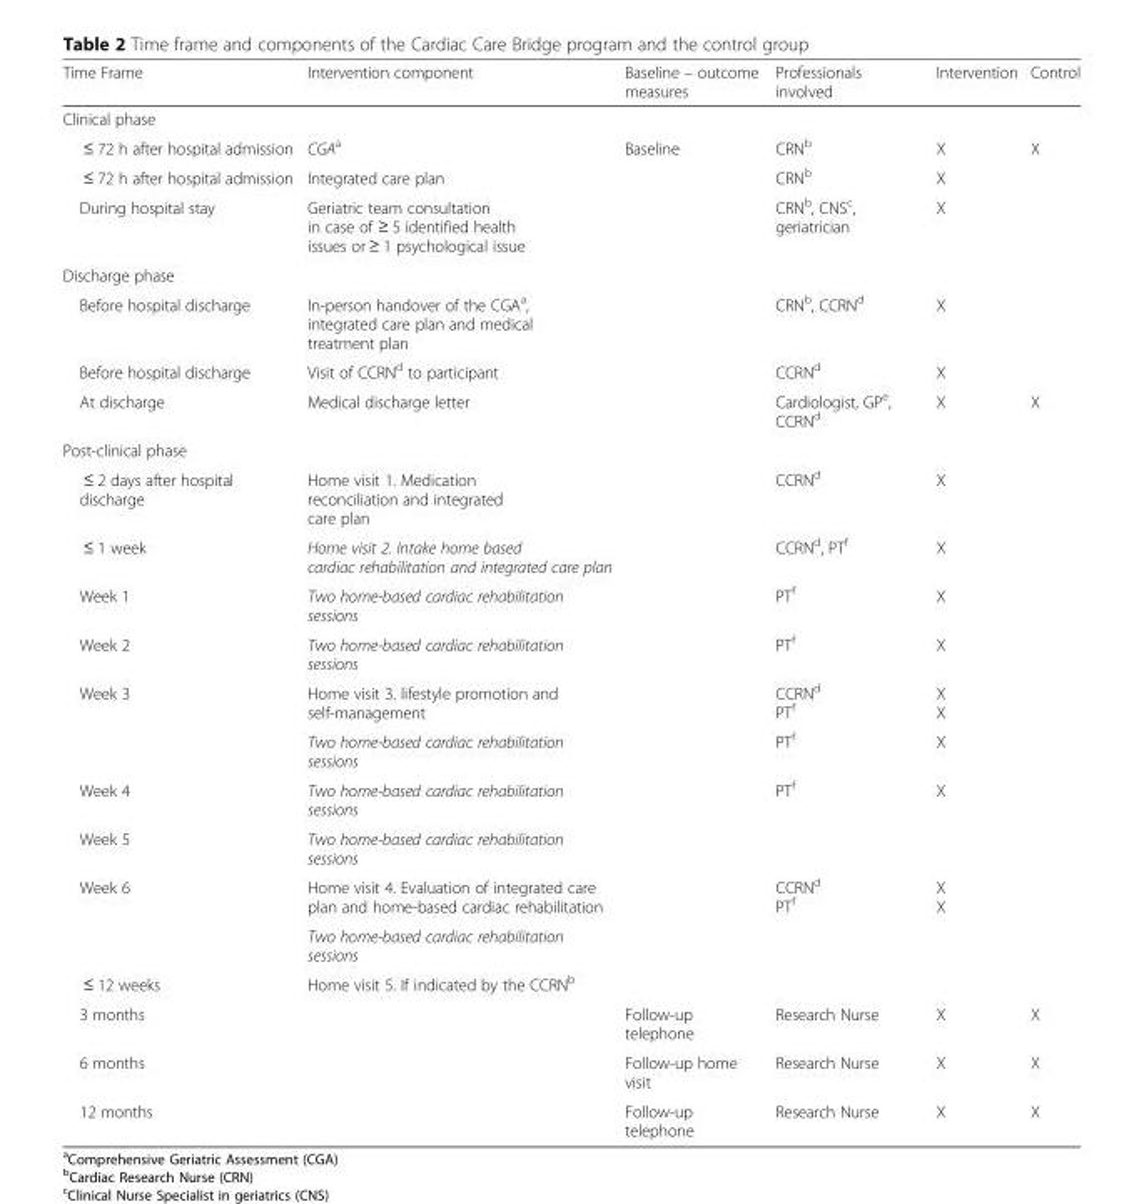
<table><thead><tr><td>Time Frame</td><td>Intervention component</td><td>Baseline – outcome measures</td><td>Professionals involved</td><td>Intervention</td><td>Control</td></tr></thead><tbody><tr><td colspan="6">Clinical phase</td></tr><tr><td>≤ 72 h after hospital admission</td><td>CGA<sup>a</sup></td><td>Baseline</td><td>CRN<sup>b</sup></td><td>X</td><td>X</td></tr><tr><td>≤ 72 h after hospital admission</td><td>Integrated care plan</td><td></td><td>CRN<sup>b</sup></td><td>X</td><td></td></tr><tr><td>During hospital stay</td><td>Geriatric team consultation in case of ≥ 5 identified health issues or ≥ 1 psychological issue</td><td></td><td>CRN<sup>b</sup>, CNS<sup>c</sup>, geriatrician</td><td>X</td><td></td></tr><tr><td colspan="6">Discharge phase</td></tr><tr><td>Before hospital discharge</td><td>In-person handover of the CGA<sup>a</sup>, integrated care plan and medical treatment plan</td><td></td><td>CRN<sup>b</sup>, CCRN<sup>d</sup></td><td>X</td><td></td></tr><tr><td>Before hospital discharge</td><td>Visit of CCRN<sup>d</sup> to participant</td><td></td><td>CCRN<sup>d</sup></td><td>X</td><td></td></tr><tr><td>At discharge</td><td>Medical discharge letter</td><td></td><td>Cardiologist, GP<sup>e</sup>, CCRN<sup>d</sup></td><td>X</td><td>X</td></tr><tr><td colspan="6">Post-clinical phase</td></tr><tr><td>≤ 2 days after hospital discharge</td><td>Home visit 1. Medication reconciliation and integrated care plan</td><td></td><td>CCRN<sup>d</sup></td><td>X</td><td></td></tr><tr><td>≤ 1 week</td><td>Home visit 2. Intake home based cardiac rehabilitation and integrated care plan</td><td></td><td>CCRN<sup>d</sup>, PT<sup>f</sup></td><td>X</td><td></td></tr><tr><td>Week 1</td><td>Two home-based cardiac rehabilitation sessions</td><td></td><td>PT<sup>f</sup></td><td>X</td><td></td></tr><tr><td>Week 2</td><td>Two home-based cardiac rehabilitation sessions</td><td></td><td>PT<sup>f</sup></td><td>X</td><td></td></tr><tr><td rowspan="2">Week 3</td><td>Home visit 3. lifestyle promotion and self-management</td><td></td><td>CCRN<sup>d</sup> PT<sup>f</sup></td><td>X X</td><td></td></tr><tr><td>Two home-based cardiac rehabilitation sessions</td><td></td><td>PT<sup>f</sup></td><td>X</td><td></td></tr><tr><td>Week 4</td><td>Two home-based cardiac rehabilitation sessions</td><td></td><td>PT<sup>f</sup></td><td>X</td><td></td></tr><tr><td>Week 5</td><td>Two home-based cardiac rehabilitation sessions</td><td></td><td></td><td></td><td></td></tr><tr><td rowspan="2">Week 6</td><td>Home visit 4. Evaluation of integrated care plan and home-based cardiac rehabilitation</td><td></td><td>CCRN<sup>d</sup> PT<sup>f</sup></td><td>X X</td><td></td></tr><tr><td>Two home-based cardiac rehabilitation sessions</td><td></td><td></td><td></td><td></td></tr><tr><td>≤ 12 weeks</td><td>Home visit 5. If indicated by the CCRN<sup>b</sup></td><td></td><td></td><td></td><td></td></tr><tr><td>3 months</td><td></td><td>Follow-up telephone</td><td>Research Nurse</td><td>X</td><td>X</td></tr><tr><td>6 months</td><td></td><td>Follow-up home visit</td><td>Research Nurse</td><td>X</td><td>X</td></tr><tr><td>12 months</td><td></td><td>Follow-up telephone</td><td>Research Nurse</td><td>X</td><td>X</td></tr></tbody></table>